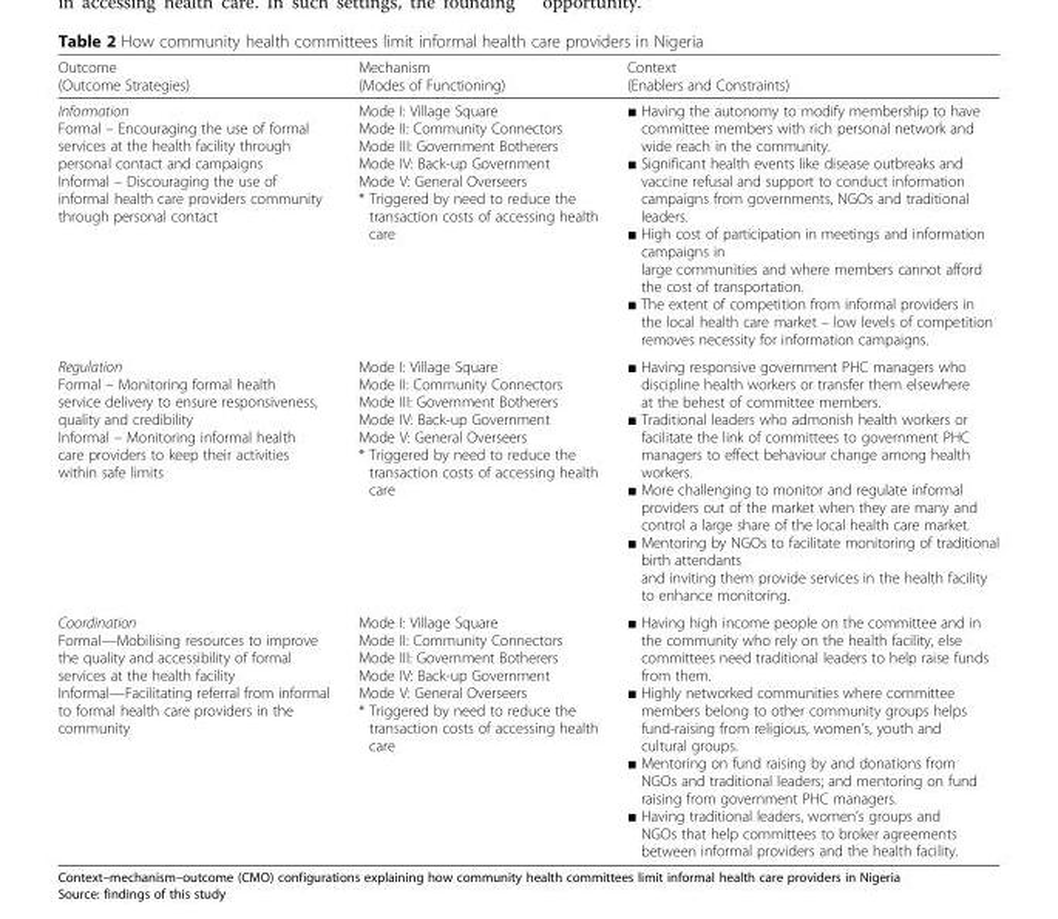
<table><thead><tr><td>Outcome (Outcome Strategies)</td><td>Mechanism (Modes of Functioning)</td><td>Context (Enablers and Constraints)</td></tr></thead><tbody><tr><td>Information Formal – Encouraging the use of formal services at the health facility through personal contact and campaigns Informal – Discouraging the use of informal health care providers community through personal contact</td><td>Mode I: Village Square Mode II: Community Connectors Mode III: Government Botherers Mode IV: Back-up Government Mode V: General Overseers * Triggered by need to reduce the transaction costs of accessing health care</td><td>■ Having the autonomy to modify membership to have committee members with rich personal network and wide reach in the community. ■ Significant health events like disease outbreaks and vaccine refusal and support to conduct information campaigns from governments, NGOs and traditional leaders. ■ High cost of participation in meetings and information campaigns in large communities and where members cannot afford the cost of transportation. ■ The extent of competition from informal providers in the local health care market – low levels of competition removes necessity for information campaigns.</td></tr><tr><td>Regulation Formal – Monitoring formal health service delivery to ensure responsiveness, quality and credibility Informal – Monitoring informal health care providers to keep their activities within safe limits</td><td>Mode I: Village Square Mode II: Community Connectors Mode III: Government Botherers Mode IV: Back-up Government Mode V: General Overseers * Triggered by need to reduce the transaction costs of accessing health care</td><td>■ Having responsive government PHC managers who discipline health workers or transfer them elsewhere at the behest of committee members. ■ Traditional leaders who admonish health workers or facilitate the link of committees to government PHC managers to effect behaviour change among health workers. ■ More challenging to monitor and regulate informal providers out of the market when they are many and control a large share of the local health care market. ■ Mentoring by NGOs to facilitate monitoring of traditional birth attendants and inviting them provide services in the health facility to enhance monitoring.</td></tr><tr><td>Coordination Formal—Mobilising resources to improve the quality and accessibility of formal services at the health facility Informal—Facilitating referral from informal to formal health care providers in the community</td><td>Mode I: Village Square Mode II: Community Connectors Mode III: Government Botherers Mode IV: Back-up Government Mode V: General Overseers * Triggered by need to reduce the transaction costs of accessing health care</td><td>■ Having high income people on the committee and in the community who rely on the health facility, else committees need traditional leaders to help raise funds from them. ■ Highly networked communities where committee members belong to other community groups helps fund-raising from religious, women’s, youth and cultural groups. ■ Mentoring on fund raising by and donations from NGOs and traditional leaders; and mentoring on fund raising from government PHC managers. ■ Having traditional leaders, women’s groups and NGOs that help committees to broker agreements between informal providers and the health facility.</td></tr></tbody></table>